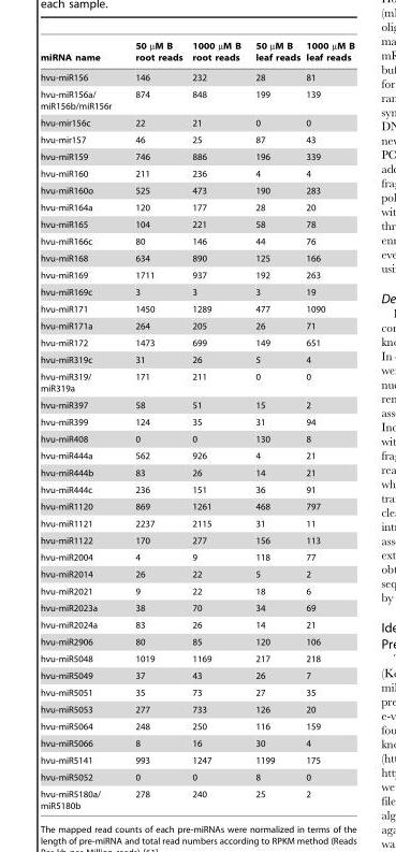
<table><thead><tr><td>miRNA name</td><td>50 µM B root reads</td><td>1000 µM B root reads</td><td>50 µM B leaf reads</td><td>1000 µM B leaf reads</td></tr></thead><tbody><tr><td>hvu-miR156</td><td>146</td><td>232</td><td>28</td><td>81</td></tr><tr><td>hvu-miR156a/ miR156b/miR156r</td><td>874</td><td>848</td><td>199</td><td>139</td></tr><tr><td>hvu-mir156c</td><td>22</td><td>21</td><td>0</td><td>0</td></tr><tr><td>hvu-mir157</td><td>46</td><td>25</td><td>87</td><td>43</td></tr><tr><td>hvu-miR159</td><td>746</td><td>886</td><td>196</td><td>339</td></tr><tr><td>hvu-miR160</td><td>211</td><td>236</td><td>4</td><td>4</td></tr><tr><td>hvu-miR160o</td><td>525</td><td>473</td><td>190</td><td>283</td></tr><tr><td>hvu-miR164a</td><td>120</td><td>177</td><td>28</td><td>20</td></tr><tr><td>hvu-miR165</td><td>104</td><td>221</td><td>58</td><td>78</td></tr><tr><td>hvu-miR166c</td><td>80</td><td>146</td><td>44</td><td>76</td></tr><tr><td>hvu-miR168</td><td>634</td><td>890</td><td>125</td><td>166</td></tr><tr><td>hvu-miR169</td><td>1711</td><td>937</td><td>192</td><td>263</td></tr><tr><td>hvu-miR169c</td><td>3</td><td>3</td><td>3</td><td>19</td></tr><tr><td>hvu-miR171</td><td>1450</td><td>1289</td><td>477</td><td>1090</td></tr><tr><td>hvu-miR171a</td><td>264</td><td>205</td><td>26</td><td>71</td></tr><tr><td>hvu-miR172</td><td>1473</td><td>699</td><td>149</td><td>651</td></tr><tr><td>hvu-miR319c</td><td>31</td><td>26</td><td>5</td><td>4</td></tr><tr><td>hvu-miR319/ miR319a</td><td>171</td><td>211</td><td>0</td><td>0</td></tr><tr><td>hvu-miR397</td><td>58</td><td>51</td><td>15</td><td>2</td></tr><tr><td>hvu-miR399</td><td>124</td><td>35</td><td>31</td><td>94</td></tr><tr><td>hvu-miR408</td><td>0</td><td>0</td><td>130</td><td>8</td></tr><tr><td>hvu-miR444a</td><td>562</td><td>926</td><td>4</td><td>21</td></tr><tr><td>hvu-miR444b</td><td>83</td><td>26</td><td>14</td><td>21</td></tr><tr><td>hvu-miR444c</td><td>236</td><td>151</td><td>36</td><td>91</td></tr><tr><td>hvu-miR1120</td><td>869</td><td>1261</td><td>468</td><td>797</td></tr><tr><td>hvu-miR1121</td><td>2237</td><td>2115</td><td>31</td><td>11</td></tr><tr><td>hvu-miR1122</td><td>170</td><td>277</td><td>156</td><td>113</td></tr><tr><td>hvu-miR2004</td><td>4</td><td>9</td><td>118</td><td>77</td></tr><tr><td>hvu-miR2014</td><td>26</td><td>22</td><td>5</td><td>2</td></tr><tr><td>hvu-miR2021</td><td>9</td><td>22</td><td>18</td><td>6</td></tr><tr><td>hvu-miR2023a</td><td>38</td><td>70</td><td>34</td><td>69</td></tr><tr><td>hvu-miR2024a</td><td>83</td><td>26</td><td>14</td><td>21</td></tr><tr><td>hvu-miR2906</td><td>80</td><td>85</td><td>120</td><td>106</td></tr><tr><td>hvu-miR5048</td><td>1019</td><td>1169</td><td>217</td><td>218</td></tr><tr><td>hvu-miR5049</td><td>37</td><td>43</td><td>26</td><td>7</td></tr><tr><td>hvu-miR5051</td><td>35</td><td>73</td><td>27</td><td>35</td></tr><tr><td>hvu-miR5053</td><td>277</td><td>733</td><td>126</td><td>20</td></tr><tr><td>hvu-miR5064</td><td>248</td><td>250</td><td>116</td><td>159</td></tr><tr><td>hvu-miR5066</td><td>8</td><td>16</td><td>30</td><td>4</td></tr><tr><td>hvu-miR5141</td><td>993</td><td>1247</td><td>1199</td><td>175</td></tr><tr><td>hvu-miR5052</td><td>0</td><td>0</td><td>8</td><td>0</td></tr><tr><td>hvu-miR5180a/ miR5180b</td><td>278</td><td>240</td><td>25</td><td>2</td></tr></tbody></table>